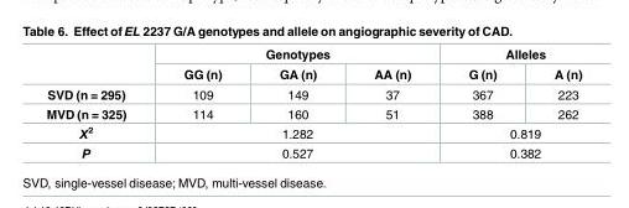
<table><thead><tr><td rowspan="2"></td><td colspan="3">Genotypes</td><td colspan="2">Alleles</td></tr><tr><td>GG (n)</td><td>GA (n)</td><td>AA (n)</td><td>G (n)</td><td>A (n)</td></tr></thead><tbody><tr><td>SVD (n = 295)</td><td>109</td><td>149</td><td>37</td><td>367</td><td>223</td></tr><tr><td>MVD (n = 325)</td><td>114</td><td>160</td><td>51</td><td>388</td><td>262</td></tr><tr><td>X<sup>2</sup></td><td colspan="3">1.282</td><td colspan="2">0.819</td></tr><tr><td>P</td><td colspan="3">0.527</td><td colspan="2">0.382</td></tr></tbody></table>